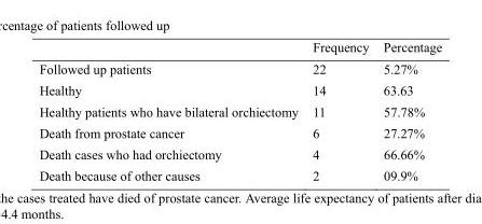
<table><thead><tr><td></td><td>Frequency</td><td>Percentage</td></tr></thead><tbody><tr><td>Followed up patients</td><td>22</td><td>5.27%</td></tr><tr><td>Healthy</td><td>14</td><td>63.63</td></tr><tr><td>Healthy patients who have bilateral orchiectomy</td><td>11</td><td>57.78%</td></tr><tr><td>Death from prostate cancer</td><td>6</td><td>27.27%</td></tr><tr><td>Death cases who had orchiectomy</td><td>4</td><td>66.66%</td></tr><tr><td>Death because of other causes</td><td>2</td><td>09.9%</td></tr></tbody></table>